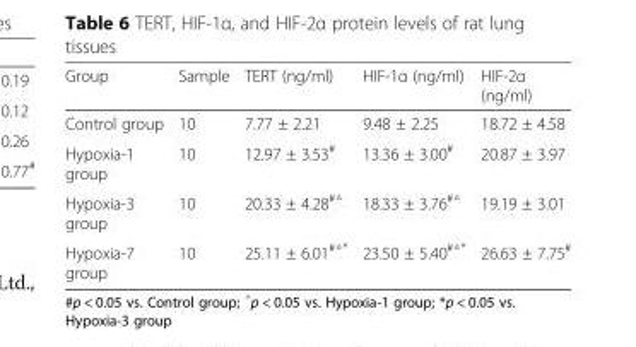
<table><thead><tr><td>Group</td><td>Sample</td><td>TERT (ng/ml)</td><td>HIF-1α (ng/ml)</td><td>HIF-2α (ng/ml)</td></tr></thead><tbody><tr><td>Control group</td><td>10</td><td>7.77 ± 2.21</td><td>9.48 ± 2.25</td><td>18.72 ± 4.58</td></tr><tr><td>Hypoxia-1 group</td><td>10</td><td>12.97 ± 3.53<sup>#</sup></td><td>13.36 ± 3.00<sup>#</sup></td><td>20.87 ± 3.97</td></tr><tr><td>Hypoxia-3 group</td><td>10</td><td>20.33 ± 4.28<sup>#△</sup></td><td>18.33 ± 3.76<sup>#△</sup></td><td>19.19 ± 3.01</td></tr><tr><td>Hypoxia-7 group</td><td>10</td><td>25.11 ± 6.01<sup>#△*</sup></td><td>23.50 ± 5.40<sup>#△*</sup></td><td>26.63 ± 7.75<sup>#</sup></td></tr></tbody></table>